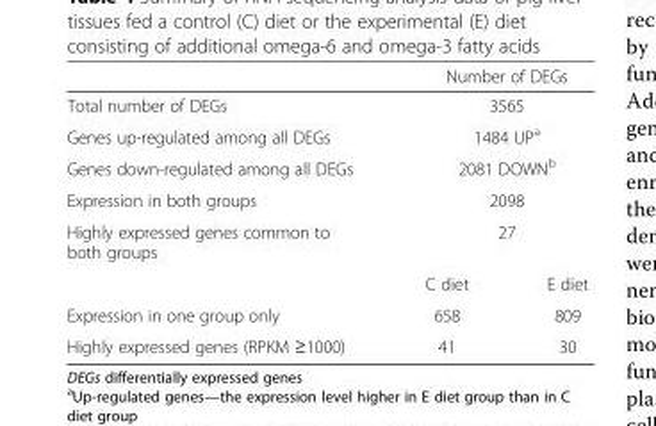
<table><thead><tr><td></td><td colspan="2">Number of DEGs</td></tr></thead><tbody><tr><td>Total number of DEGs</td><td colspan="2">3565</td></tr><tr><td>Genes up-regulated among all DEGs</td><td colspan="2">1484 UP<sup>a</sup></td></tr><tr><td>Genes down-regulated among all DEGs</td><td colspan="2">2081 DOWN<sup>b</sup></td></tr><tr><td>Expression in both groups</td><td colspan="2">2098</td></tr><tr><td rowspan="2">Highly expressed genes common to both groups</td><td colspan="2">27</td></tr><tr><td>C diet</td><td>E diet</td></tr><tr><td>Expression in one group only</td><td>658</td><td>809</td></tr><tr><td>Highly expressed genes (RPKM ≥1000)</td><td>41</td><td>30</td></tr></tbody></table>